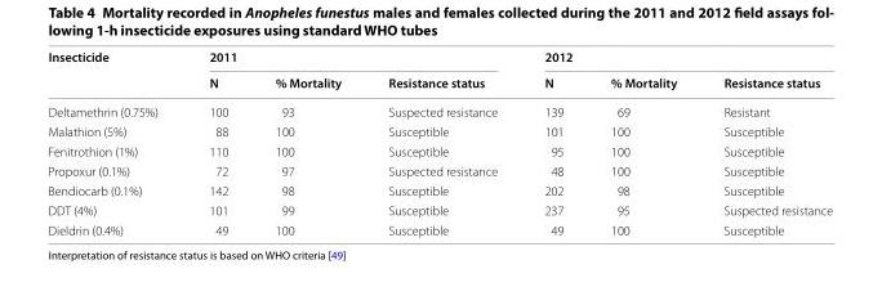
<table><thead><tr><td rowspan="2">Insecticide</td><td colspan="3">2011</td><td colspan="3">2012</td></tr><tr><td>N</td><td>% Mortality</td><td>Resistance status</td><td>N</td><td>% Mortality</td><td>Resistance status</td></tr></thead><tbody><tr><td>Deltamethrin (0.75%)</td><td>100</td><td>93</td><td>Suspected resistance</td><td>139</td><td>69</td><td>Resistant</td></tr><tr><td>Malathion (5%)</td><td>88</td><td>100</td><td>Susceptible</td><td>101</td><td>100</td><td>Susceptible</td></tr><tr><td>Fenitrothion (1%)</td><td>110</td><td>100</td><td>Susceptible</td><td>95</td><td>100</td><td>Susceptible</td></tr><tr><td>Propoxur (0.1%)</td><td>72</td><td>97</td><td>Suspected resistance</td><td>48</td><td>100</td><td>Susceptible</td></tr><tr><td>Bendiocarb (0.1%)</td><td>142</td><td>98</td><td>Susceptible</td><td>202</td><td>98</td><td>Susceptible</td></tr><tr><td>DDT (4%)</td><td>101</td><td>99</td><td>Susceptible</td><td>237</td><td>95</td><td>Suspected resistance</td></tr><tr><td>Dieldrin (0.4%)</td><td>49</td><td>100</td><td>Susceptible</td><td>49</td><td>100</td><td>Susceptible</td></tr></tbody></table>